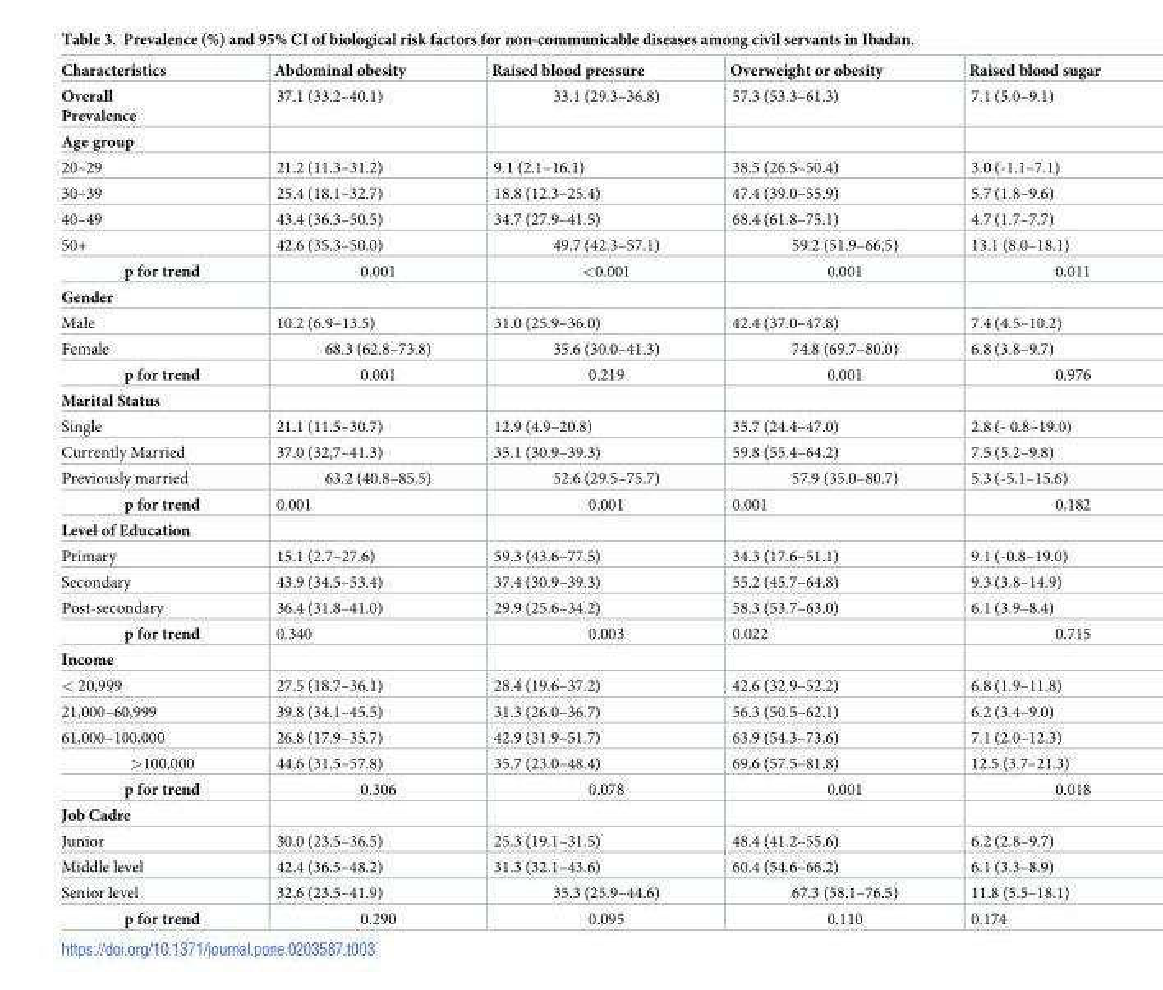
<table><thead><tr><td>Characteristics</td><td>Abdominal obesity</td><td>Raised blood pressure</td><td>Overweight or obesity</td><td>Raised blood sugar</td></tr></thead><tbody><tr><td>Overall Prevalence</td><td>37.1 (33.2–40.1)</td><td>33.1 (29.3–36.8)</td><td>57.3 (53.3–61.3)</td><td>7.1 (5.0–9.1)</td></tr><tr><td colspan="5">Age group</td></tr><tr><td>20–29</td><td>21.2 (11.3–31.2)</td><td>9.1 (2.1–16.1)</td><td>38.5 (26.5–50.4)</td><td>3.0 (-1.1–7.1)</td></tr><tr><td>30–39</td><td>25.4 (18.1–32.7)</td><td>18.8 (12.3–25.4)</td><td>47.4 (39.0–55.9)</td><td>5.7 (1.8–9.6)</td></tr><tr><td>40–49</td><td>43.4 (36.3–50.5)</td><td>34.7 (27.9–41.5)</td><td>68.4 (61.8–75.1)</td><td>4.7 (1.7–7.7)</td></tr><tr><td>50+</td><td>42.6 (35.3–50.0)</td><td>49.7 (42.3–57.1)</td><td>59.2 (51.9–66.5)</td><td>13.1 (8.0–18.1)</td></tr><tr><td>p for trend</td><td>0.001</td><td>&lt;0.001</td><td>0.001</td><td>0.011</td></tr><tr><td colspan="5">Gender</td></tr><tr><td>Male</td><td>10.2 (6.9–13.5)</td><td>31.0 (25.9–36.0)</td><td>42.4 (37.0–47.8)</td><td>7.4 (4.5–10.2)</td></tr><tr><td>Female</td><td>68.3 (62.8–73.8)</td><td>35.6 (30.0–41.3)</td><td>74.8 (69.7–80.0)</td><td>6.8 (3.8–9.7)</td></tr><tr><td>p for trend</td><td>0.001</td><td>0.219</td><td>0.001</td><td>0.976</td></tr><tr><td colspan="5">Marital Status</td></tr><tr><td>Single</td><td>21.1 (11.5–30.7)</td><td>12.9 (4.9–20.8)</td><td>35.7 (24.4–47.0)</td><td>2.8 (- 0.8–19.0)</td></tr><tr><td>Currently Married</td><td>37.0 (32,7–41.3)</td><td>35.1 (30.9–39.3)</td><td>59.8 (55.4–64.2)</td><td>7.5 (5.2–9.8)</td></tr><tr><td>Previously married</td><td>63.2 (40.8–85.5)</td><td>52.6 (29.5–75.7)</td><td>57.9 (35.0–80.7)</td><td>5.3 (-5.1–15.6)</td></tr><tr><td>p for trend</td><td>0.001</td><td>0.001</td><td>0.001</td><td>0.182</td></tr><tr><td colspan="5">Level of Education</td></tr><tr><td>Primary</td><td>15.1 (2.7–27.6)</td><td>59.3 (43.6–77.5)</td><td>34.3 (17.6–51.1)</td><td>9.1 (-0.8–19.0)</td></tr><tr><td>Secondary</td><td>43.9 (34.5–53.4)</td><td>37.4 (30.9–39.3)</td><td>55.2 (45.7–64.8)</td><td>9.3 (3.8–14.9)</td></tr><tr><td>Post-secondary</td><td>36.4 (31.8–41.0)</td><td>29.9 (25.6–34.2)</td><td>58.3 (53.7–63.0)</td><td>6.1 (3.9–8.4)</td></tr><tr><td>p for trend</td><td>0.340</td><td>0.003</td><td>0.022</td><td>0.715</td></tr><tr><td colspan="5">Income</td></tr><tr><td>&lt; 20,999</td><td>27.5 (18.7–36.1)</td><td>28.4 (19.6–37.2)</td><td>42.6 (32.9–52.2)</td><td>6.8 (1.9–11.8)</td></tr><tr><td>21,000–60,999</td><td>39.8 (34.1–45.5)</td><td>31.3 (26.0–36.7)</td><td>56.3 (50.5–62.1)</td><td>6.2 (3.4–9.0)</td></tr><tr><td>61,000–100,000</td><td>26.8 (17.9–35.7)</td><td>42.9 (31.9–51.7)</td><td>63.9 (54.3–73.6)</td><td>7.1 (2.0–12.3)</td></tr><tr><td>&gt;100,000</td><td>44.6 (31.5–57.8)</td><td>35.7 (23.0–48.4)</td><td>69.6 (57.5–81.8)</td><td>12.5 (3.7–21.3)</td></tr><tr><td>p for trend</td><td>0.306</td><td>0.078</td><td>0.001</td><td>0.018</td></tr><tr><td colspan="5">Job Cadre</td></tr><tr><td>Junior</td><td>30.0 (23.5–36.5)</td><td>25.3 (19.1–31.5)</td><td>48.4 (41.2–55.6)</td><td>6.2 (2.8–9.7)</td></tr><tr><td>Middle level</td><td>42.4 (36.5–48.2)</td><td>31.3 (32.1–43.6)</td><td>60.4 (54.6–66.2)</td><td>6.1 (3.3–8.9)</td></tr><tr><td>Senior level</td><td>32.6 (23.5–41.9)</td><td>35.3 (25.9–44.6)</td><td>67.3 (58.1–76.5)</td><td>11.8 (5.5–18.1)</td></tr><tr><td>p for trend</td><td>0.290</td><td>0.095</td><td>0.110</td><td>0.174</td></tr></tbody></table>